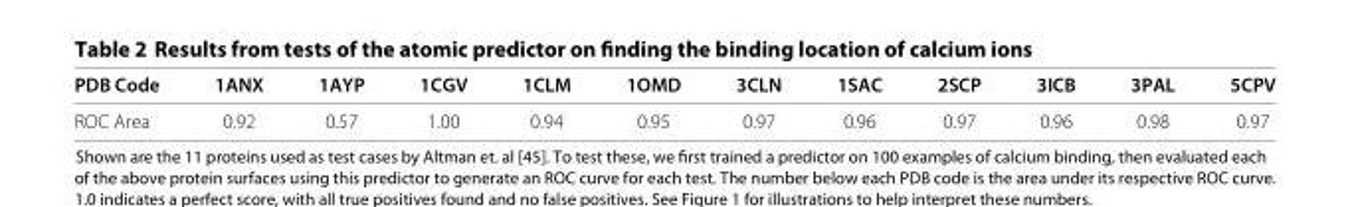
<table><thead><tr><td>PDB Code</td><td>1ANX</td><td>1AYP</td><td>1CGV</td><td>1CLM</td><td>1OMD</td><td>3CLN</td><td>1SAC</td><td>2SCP</td><td>3ICB</td><td>3PAL</td><td>5CPV</td></tr></thead><tbody><tr><td>ROC Area</td><td>0.92</td><td>0.57</td><td>1.00</td><td>0.94</td><td>0.95</td><td>0.97</td><td>0.96</td><td>0.97</td><td>0.96</td><td>0.98</td><td>0.97</td></tr></tbody></table>